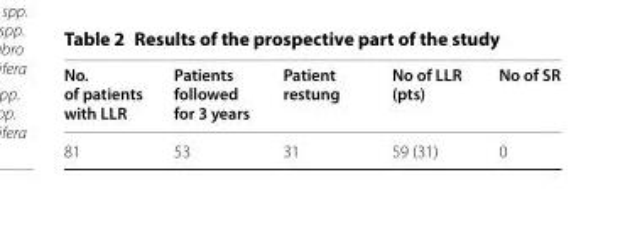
<table><thead><tr><td>No. of patients with LLR</td><td>Patients followed for 3 years</td><td>Patient restung</td><td>No of LLR (pts)</td><td>No of SR</td></tr></thead><tbody><tr><td>81</td><td>53</td><td>31</td><td>59 (31)</td><td>0</td></tr></tbody></table>